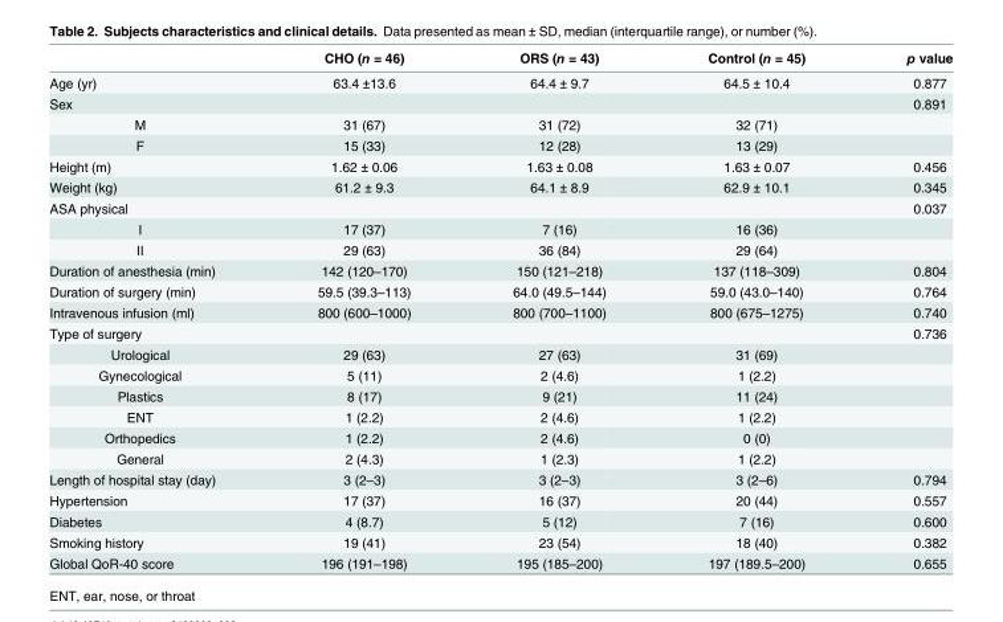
<table><thead><tr><td></td><td>CHO (n = 46)</td><td>ORS (n = 43)</td><td>Control (n = 45)</td><td>p value</td></tr></thead><tbody><tr><td>Age (yr)</td><td>63.4 ±13.6</td><td>64.4 ± 9.7</td><td>64.5 ± 10.4</td><td>0.877</td></tr><tr><td>Sex</td><td></td><td></td><td></td><td>0.891</td></tr><tr><td>M</td><td>31 (67)</td><td>31 (72)</td><td>32 (71)</td><td></td></tr><tr><td>F</td><td>15 (33)</td><td>12 (28)</td><td>13 (29)</td><td></td></tr><tr><td>Height (m)</td><td>1.62 ± 0.06</td><td>1.63 ± 0.08</td><td>1.63 ± 0.07</td><td>0.456</td></tr><tr><td>Weight (kg)</td><td>61.2 ± 9.3</td><td>64.1 ± 8.9</td><td>62.9 ± 10.1</td><td>0.345</td></tr><tr><td>ASA physical</td><td></td><td></td><td></td><td>0.037</td></tr><tr><td>Ⅰ</td><td>17 (37)</td><td>7 (16)</td><td>16 (36)</td><td></td></tr><tr><td>Ⅱ</td><td>29 (63)</td><td>36 (84)</td><td>29 (64)</td><td></td></tr><tr><td>Duration of anesthesia (min)</td><td>142 (120–170)</td><td>150 (121–218)</td><td>137 (118–309)</td><td>0.804</td></tr><tr><td>Duration of surgery (min)</td><td>59.5 (39.3–113)</td><td>64.0 (49.5–144)</td><td>59.0 (43.0–140)</td><td>0.764</td></tr><tr><td>Intravenous infusion (ml)</td><td>800 (600–1000)</td><td>800 (700–1100)</td><td>800 (675–1275)</td><td>0.740</td></tr><tr><td>Type of surgery</td><td></td><td></td><td></td><td>0.736</td></tr><tr><td>Urological</td><td>29 (63)</td><td>27 (63)</td><td>31 (69)</td><td></td></tr><tr><td>Gynecological</td><td>5 (11)</td><td>2 (4.6)</td><td>1 (2.2)</td><td></td></tr><tr><td>Plastics</td><td>8 (17)</td><td>9 (21)</td><td>11 (24)</td><td></td></tr><tr><td>ENT</td><td>1 (2.2)</td><td>2 (4.6)</td><td>1 (2.2)</td><td></td></tr><tr><td>Orthopedics</td><td>1 (2.2)</td><td>2 (4.6)</td><td>0 (0)</td><td></td></tr><tr><td>General</td><td>2 (4.3)</td><td>1 (2.3)</td><td>1 (2.2)</td><td></td></tr><tr><td>Length of hospital stay (day)</td><td>3 (2–3)</td><td>3 (2–3)</td><td>3 (2–6)</td><td>0.794</td></tr><tr><td>Hypertension</td><td>17 (37)</td><td>16 (37)</td><td>20 (44)</td><td>0.557</td></tr><tr><td>Diabetes</td><td>4 (8.7)</td><td>5 (12)</td><td>7 (16)</td><td>0.600</td></tr><tr><td>Smoking history</td><td>19 (41)</td><td>23 (54)</td><td>18 (40)</td><td>0.382</td></tr><tr><td>Global QoR-40 score</td><td>196 (191–198)</td><td>195 (185–200)</td><td>197 (189.5–200)</td><td>0.655</td></tr></tbody></table>